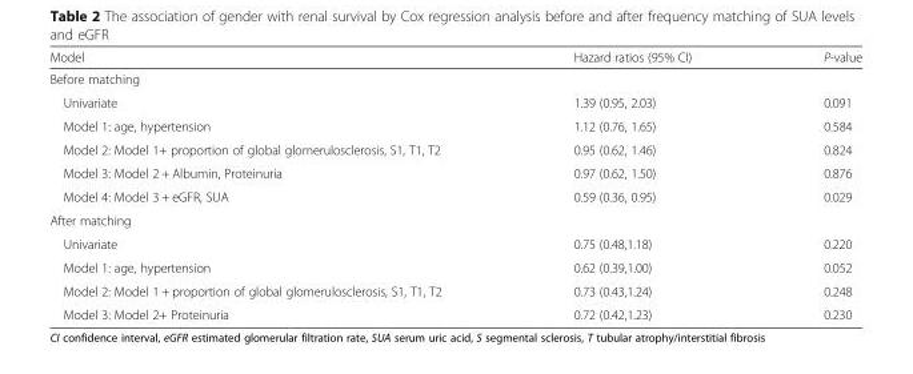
<table><thead><tr><td>Model</td><td>Hazard ratios (95% CI)</td><td>P-value</td></tr></thead><tbody><tr><td colspan="3">Before matching</td></tr><tr><td>Univariate</td><td>1.39 (0.95, 2.03)</td><td>0.091</td></tr><tr><td>Model 1: age, hypertension</td><td>1.12 (0.76, 1.65)</td><td>0.584</td></tr><tr><td>Model 2: Model 1+ proportion of global glomerulosclerosis, S1, T1, T2</td><td>0.95 (0.62, 1.46)</td><td>0.824</td></tr><tr><td>Model 3: Model 2 + Albumin, Proteinuria</td><td>0.97 (0.62, 1.50)</td><td>0.876</td></tr><tr><td>Model 4: Model 3 + eGFR, SUA</td><td>0.59 (0.36, 0.95)</td><td>0.029</td></tr><tr><td colspan="3">After matching</td></tr><tr><td>Univariate</td><td>0.75 (0.48,1.18)</td><td>0.220</td></tr><tr><td>Model 1: age, hypertension</td><td>0.62 (0.39,1.00)</td><td>0.052</td></tr><tr><td>Model 2: Model 1 + proportion of global glomerulosclerosis, S1, T1, T2</td><td>0.73 (0.43,1.24)</td><td>0.248</td></tr><tr><td>Model 3: Model 2+ Proteinuria</td><td>0.72 (0.42,1.23)</td><td>0.230</td></tr></tbody></table>